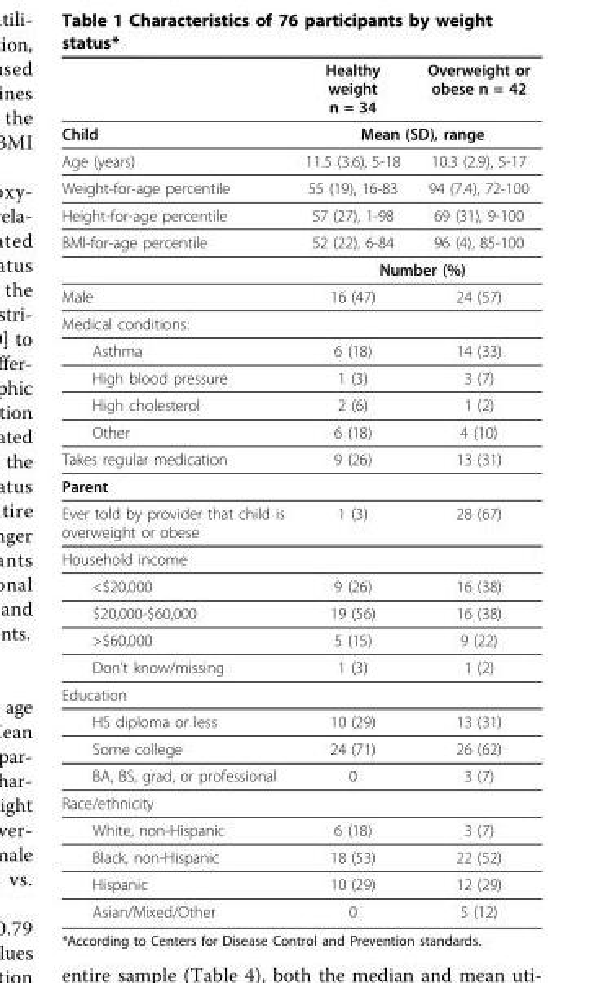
<table><thead><tr><td></td><td>Healthy weight n = 34</td><td>Overweight or obese n = 42</td></tr></thead><tbody><tr><td>Child</td><td colspan="2">Mean (SD), range</td></tr><tr><td>Age (years)</td><td>11.5 (3.6), 5-18</td><td>10.3 (2.9), 5-17</td></tr><tr><td>Weight-for-age percentile</td><td>55 (19), 16-83</td><td>94 (7.4), 72-100</td></tr><tr><td>Height-for-age percentile</td><td>57 (27), 1-98</td><td>69 (31), 9-100</td></tr><tr><td rowspan="2">BMI-for-age percentile</td><td>52 (22), 6-84</td><td>96 (4), 85-100</td></tr><tr><td colspan="2">Number (%)</td></tr><tr><td>Male</td><td>16 (47)</td><td>24 (57)</td></tr><tr><td colspan="3">Medical conditions:</td></tr><tr><td>Asthma</td><td>6 (18)</td><td>14 (33)</td></tr><tr><td>High blood pressure</td><td>1 (3)</td><td>3 (7)</td></tr><tr><td>High cholesterol</td><td>2 (6)</td><td>1 (2)</td></tr><tr><td>Other</td><td>6 (18)</td><td>4 (10)</td></tr><tr><td>Takes regular medication</td><td>9 (26)</td><td>13 (31)</td></tr><tr><td colspan="3">Parent</td></tr><tr><td>Ever told by provider that child is overweight or obese</td><td>1 (3)</td><td>28 (67)</td></tr><tr><td colspan="3">Household income</td></tr><tr><td>&lt;$20,000</td><td>9 (26)</td><td>16 (38)</td></tr><tr><td>$20,000-$60,000</td><td>19 (56)</td><td>16 (38)</td></tr><tr><td>&gt;$60,000</td><td>5 (15)</td><td>9 (22)</td></tr><tr><td>Don’t know/missing</td><td>1 (3)</td><td>1 (2)</td></tr><tr><td colspan="3">Education</td></tr><tr><td>HS diploma or less</td><td>10 (29)</td><td>13 (31)</td></tr><tr><td>Some college</td><td>24 (71)</td><td>26 (62)</td></tr><tr><td>BA, BS, grad, or professional</td><td>0</td><td>3 (7)</td></tr><tr><td colspan="3">Race/ethnicity</td></tr><tr><td>White, non-Hispanic</td><td>6 (18)</td><td>3 (7)</td></tr><tr><td>Black, non-Hispanic</td><td>18 (53)</td><td>22 (52)</td></tr><tr><td>Hispanic</td><td>10 (29)</td><td>12 (29)</td></tr><tr><td>Asian/Mixed/Other</td><td>0</td><td>5 (12)</td></tr></tbody></table>